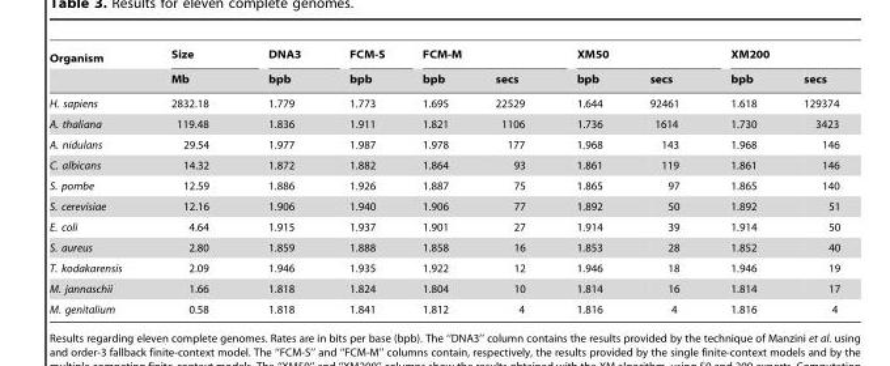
<table><thead><tr><td rowspan="2">Organism</td><td rowspan="2">Size Mb</td><td rowspan="2">DNA3 bpb</td><td rowspan="2">FCM-S bpb</td><td colspan="2">FCM-M</td><td colspan="2">XM50</td><td colspan="2">XM200</td></tr><tr><td>bpb</td><td>secs</td><td>bpb</td><td>secs</td><td>bpb</td><td>secs</td></tr></thead><tbody><tr><td>H. sapiens</td><td>2832.18</td><td>1.779</td><td>1.773</td><td>1.695</td><td>22529</td><td>1.644</td><td>92461</td><td>1.618</td><td>129374</td></tr><tr><td>A. thaliana</td><td>119.48</td><td>1.836</td><td>1.911</td><td>1.821</td><td>1106</td><td>1.736</td><td>1614</td><td>1.730</td><td>3423</td></tr><tr><td>A. nidulans</td><td>29.54</td><td>1.977</td><td>1.987</td><td>1.978</td><td>177</td><td>1.968</td><td>143</td><td>1.968</td><td>146</td></tr><tr><td>C. albicans</td><td>14.32</td><td>1.872</td><td>1.882</td><td>1.864</td><td>93</td><td>1.861</td><td>119</td><td>1.861</td><td>146</td></tr><tr><td>S. pombe</td><td>12.59</td><td>1.886</td><td>1.926</td><td>1.887</td><td>75</td><td>1.865</td><td>97</td><td>1.865</td><td>140</td></tr><tr><td>S. cerevisiae</td><td>12.16</td><td>1.906</td><td>1.940</td><td>1.906</td><td>77</td><td>1.892</td><td>50</td><td>1.892</td><td>51</td></tr><tr><td>E. coli</td><td>4.64</td><td>1.915</td><td>1.937</td><td>1.901</td><td>27</td><td>1.914</td><td>39</td><td>1.914</td><td>50</td></tr><tr><td>S. aureus</td><td>2.80</td><td>1.859</td><td>1.888</td><td>1.858</td><td>16</td><td>1.853</td><td>28</td><td>1.852</td><td>40</td></tr><tr><td>T. kodakarensis</td><td>2.09</td><td>1.946</td><td>1.935</td><td>1.922</td><td>12</td><td>1.946</td><td>18</td><td>1.946</td><td>19</td></tr><tr><td>M. jannaschii</td><td>1.66</td><td>1.818</td><td>1.824</td><td>1.804</td><td>10</td><td>1.814</td><td>16</td><td>1.814</td><td>17</td></tr><tr><td>M. genitalium</td><td>0.58</td><td>1.818</td><td>1.841</td><td>1.812</td><td>4</td><td>1.816</td><td>4</td><td>1.816</td><td>4</td></tr></tbody></table>